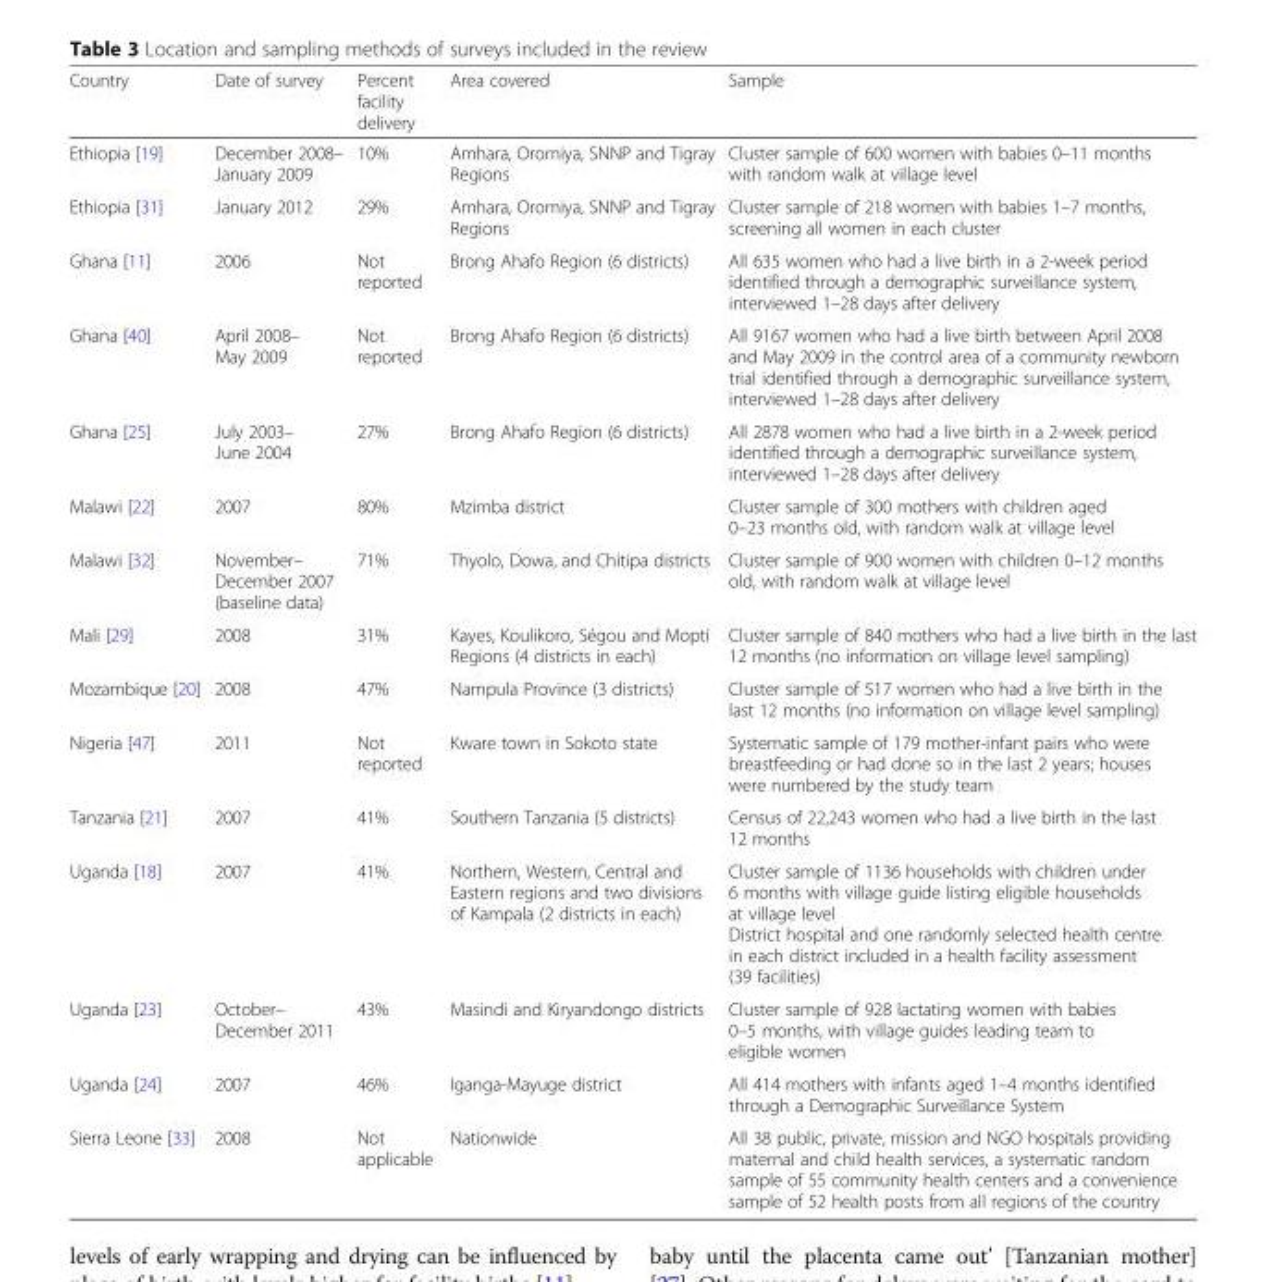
<table><thead><tr><td>Country</td><td>Date of survey</td><td>Percent facility delivery</td><td>Area covered</td><td>Sample</td></tr></thead><tbody><tr><td>Ethiopia [19]</td><td>December 2008– January 2009</td><td>10%</td><td>Amhara, Oromiya, SNNP and Tigray Regions</td><td>Cluster sample of 600 women with babies 0–11 months with random walk at village level</td></tr><tr><td>Ethiopia [31]</td><td>January 2012</td><td>29%</td><td>Amhara, Oromiya, SNNP and Tigray Regions</td><td>Cluster sample of 218 women with babies 1–7 months, screening all women in each cluster</td></tr><tr><td>Ghana [11]</td><td>2006</td><td>Not reported</td><td>Brong Ahafo Region (6 districts)</td><td>All 635 women who had a live birth in a 2-week period identified through a demographic surveillance system, interviewed 1–28 days after delivery</td></tr><tr><td>Ghana [40]</td><td>April 2008– May 2009</td><td>Not reported</td><td>Brong Ahafo Region (6 districts)</td><td>All 9167 women who had a live birth between April 2008 and May 2009 in the control area of a community newborn trial identified through a demographic surveillance system, interviewed 1–28 days after delivery</td></tr><tr><td>Ghana [25]</td><td>July 2003– June 2004</td><td>27%</td><td>Brong Ahafo Region (6 districts)</td><td>All 2878 women who had a live birth in a 2-week period identified through a demographic surveillance system, interviewed 1–28 days after delivery</td></tr><tr><td>Malawi [22]</td><td>2007</td><td>80%</td><td>Mzimba district</td><td>Cluster sample of 300 mothers with children aged 0–23 months old, with random walk at village level</td></tr><tr><td>Malawi [32]</td><td>November– December 2007 (baseline data)</td><td>71%</td><td>Thyolo, Dowa, and Chitipa districts</td><td>Cluster sample of 900 women with children 0–12 months old, with random walk at village level</td></tr><tr><td>Mali [29]</td><td>2008</td><td>31%</td><td>Kayes, Koulikoro, Ségou and Mopti Regions (4 districts in each)</td><td>Cluster sample of 840 mothers who had a live birth in the last 12 months (no information on village level sampling)</td></tr><tr><td>Mozambique [20]</td><td>2008</td><td>47%</td><td>Nampula Province (3 districts)</td><td>Cluster sample of 517 women who had a live birth in the last 12 months (no information on village level sampling)</td></tr><tr><td>Nigeria [47]</td><td>2011</td><td>Not reported</td><td>Kware town in Sokoto state</td><td>Systematic sample of 179 mother-infant pairs who were breastfeeding or had done so in the last 2 years; houses were numbered by the study team</td></tr><tr><td>Tanzania [21]</td><td>2007</td><td>41%</td><td>Southern Tanzania (5 districts)</td><td>Census of 22,243 women who had a live birth in the last 12 months</td></tr><tr><td>Uganda [18]</td><td>2007</td><td>41%</td><td>Northern, Western, Central and Eastern regions and two divisions of Kampala (2 districts in each)</td><td>Cluster sample of 1136 households with children under 6 months with village guide listing eligible households at village level District hospital and one randomly selected health centre in each district included in a health facility assessment (39 facilities)</td></tr><tr><td>Uganda [23]</td><td>October– December 2011</td><td>43%</td><td>Masindi and Kiryandongo districts</td><td>Cluster sample of 928 lactating women with babies 0–5 months, with village guides leading team to eligible women</td></tr><tr><td>Uganda [24]</td><td>2007</td><td>46%</td><td>Iganga-Mayuge district</td><td>All 414 mothers with infants aged 1–4 months identified through a Demographic Surveillance System</td></tr><tr><td>Sierra Leone [33]</td><td>2008</td><td>Not applicable</td><td>Nationwide</td><td>All 38 public, private, mission and NGO hospitals providing maternal and child health services, a systematic random sample of 55 community health centers and a convenience sample of 52 health posts from all regions of the country</td></tr></tbody></table>